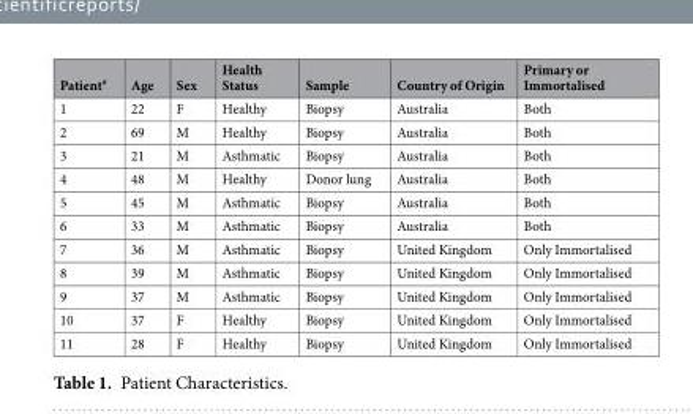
<table><thead><tr><td>Patient<sup>#</sup></td><td>Age</td><td>Sex</td><td>Health Status</td><td>Sample</td><td>Country of Origin</td><td>Primary or Immortalised</td></tr></thead><tbody><tr><td>1</td><td>22</td><td>F</td><td>Healthy</td><td>Biopsy</td><td>Australia</td><td>Both</td></tr><tr><td>2</td><td>69</td><td>M</td><td>Healthy</td><td>Biopsy</td><td>Australia</td><td>Both</td></tr><tr><td>3</td><td>21</td><td>M</td><td>Asthmatic</td><td>Biopsy</td><td>Australia</td><td>Both</td></tr><tr><td>4</td><td>48</td><td>M</td><td>Healthy</td><td>Donor lung</td><td>Australia</td><td>Both</td></tr><tr><td>5</td><td>45</td><td>M</td><td>Asthmatic</td><td>Biopsy</td><td>Australia</td><td>Both</td></tr><tr><td>6</td><td>33</td><td>M</td><td>Asthmatic</td><td>Biopsy</td><td>Australia</td><td>Both</td></tr><tr><td>7</td><td>36</td><td>M</td><td>Asthmatic</td><td>Biopsy</td><td>United Kingdom</td><td>Only Immortalised</td></tr><tr><td>8</td><td>39</td><td>M</td><td>Asthmatic</td><td>Biopsy</td><td>United Kingdom</td><td>Only Immortalised</td></tr><tr><td>9</td><td>37</td><td>M</td><td>Asthmatic</td><td>Biopsy</td><td>United Kingdom</td><td>Only Immortalised</td></tr><tr><td>10</td><td>37</td><td>F</td><td>Healthy</td><td>Biopsy</td><td>United Kingdom</td><td>Only Immortalised</td></tr><tr><td>11</td><td>28</td><td>F</td><td>Healthy</td><td>Biopsy</td><td>United Kingdom</td><td>Only Immortalised</td></tr></tbody></table>